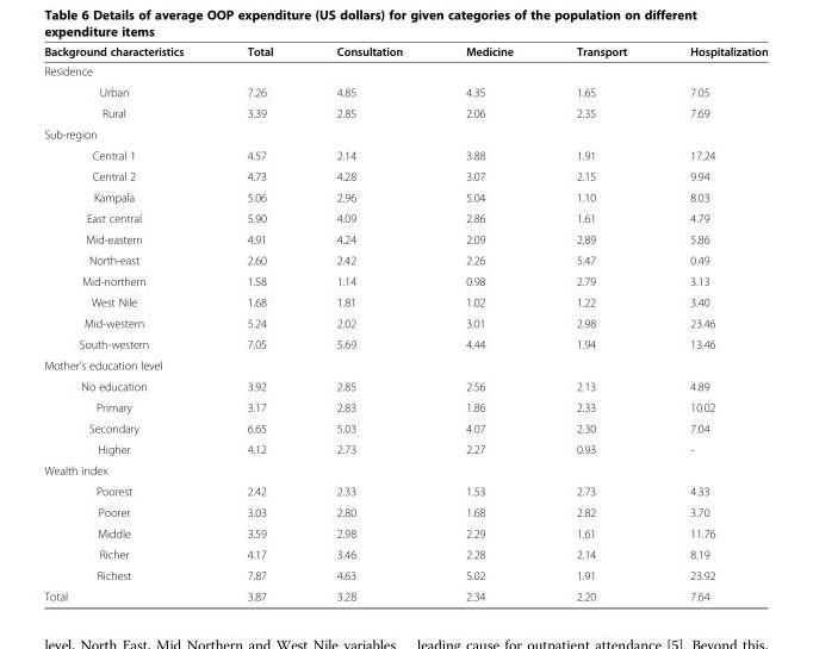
<table><thead><tr><td>Background characteristics</td><td>Total</td><td>Consultation</td><td>Medicine</td><td>Transport</td><td>Hospitalization</td></tr></thead><tbody><tr><td colspan="6">Residence</td></tr><tr><td>Urban</td><td>7.26</td><td>4.85</td><td>4.35</td><td>1.65</td><td>7.05</td></tr><tr><td>Rural</td><td>3.39</td><td>2.85</td><td>2.06</td><td>2.35</td><td>7.69</td></tr><tr><td colspan="6">Sub-region</td></tr><tr><td>Central 1</td><td>4.57</td><td>2.14</td><td>3.88</td><td>1.91</td><td>17.24</td></tr><tr><td>Central 2</td><td>4.73</td><td>4.28</td><td>3.07</td><td>2.15</td><td>9.94</td></tr><tr><td>Kampala</td><td>5.06</td><td>2.96</td><td>5.04</td><td>1.10</td><td>8.03</td></tr><tr><td>East central</td><td>5.90</td><td>4.09</td><td>2.86</td><td>1.61</td><td>4.79</td></tr><tr><td>Mid-eastern</td><td>4.91</td><td>4.24</td><td>2.09</td><td>2.89</td><td>5.86</td></tr><tr><td>North-east</td><td>2.60</td><td>2.42</td><td>2.26</td><td>5.47</td><td>0.49</td></tr><tr><td>Mid-northern</td><td>1.58</td><td>1.14</td><td>0.98</td><td>2.79</td><td>3.13</td></tr><tr><td>West Nile</td><td>1.68</td><td>1.81</td><td>1.02</td><td>1.22</td><td>3.40</td></tr><tr><td>Mid-western</td><td>5.24</td><td>2.02</td><td>3.01</td><td>2.98</td><td>23.46</td></tr><tr><td>South-western</td><td>7.05</td><td>5.69</td><td>4.44</td><td>1.94</td><td>13.46</td></tr><tr><td colspan="6">Mother&#x27;s education level</td></tr><tr><td>No education</td><td>3.92</td><td>2.85</td><td>2.56</td><td>2.13</td><td>4.89</td></tr><tr><td>Primary</td><td>3.17</td><td>2.83</td><td>1.86</td><td>2.33</td><td>10.02</td></tr><tr><td>Secondary</td><td>6.65</td><td>5.03</td><td>4.07</td><td>2.30</td><td>7.04</td></tr><tr><td>Higher</td><td>4.12</td><td>2.73</td><td>2.27</td><td>0.93</td><td>-</td></tr><tr><td colspan="6">Wealth index</td></tr><tr><td>Poorest</td><td>2.42</td><td>2.33</td><td>1.53</td><td>2.73</td><td>4.33</td></tr><tr><td>Poorer</td><td>3.03</td><td>2.80</td><td>1.68</td><td>2.82</td><td>3.70</td></tr><tr><td>Middle</td><td>3.59</td><td>2.98</td><td>2.29</td><td>1.61</td><td>11.76</td></tr><tr><td>Richer</td><td>4.17</td><td>3.46</td><td>2.28</td><td>2.14</td><td>8.19</td></tr><tr><td>Richest</td><td>7.87</td><td>4.63</td><td>5.02</td><td>1.91</td><td>23.92</td></tr><tr><td>Total</td><td>3.87</td><td>3.28</td><td>2.34</td><td>2.20</td><td>7.64</td></tr></tbody></table>